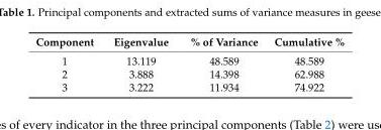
<table><thead><tr><td>Component</td><td>Eigenvalue</td><td>% of Variance</td><td>Cumulative %</td></tr></thead><tbody><tr><td>1</td><td>13.119</td><td>48.589</td><td>48.589</td></tr><tr><td>2</td><td>3.888</td><td>14.398</td><td>62.988</td></tr><tr><td>3</td><td>3.222</td><td>11.934</td><td>74.922</td></tr></tbody></table>